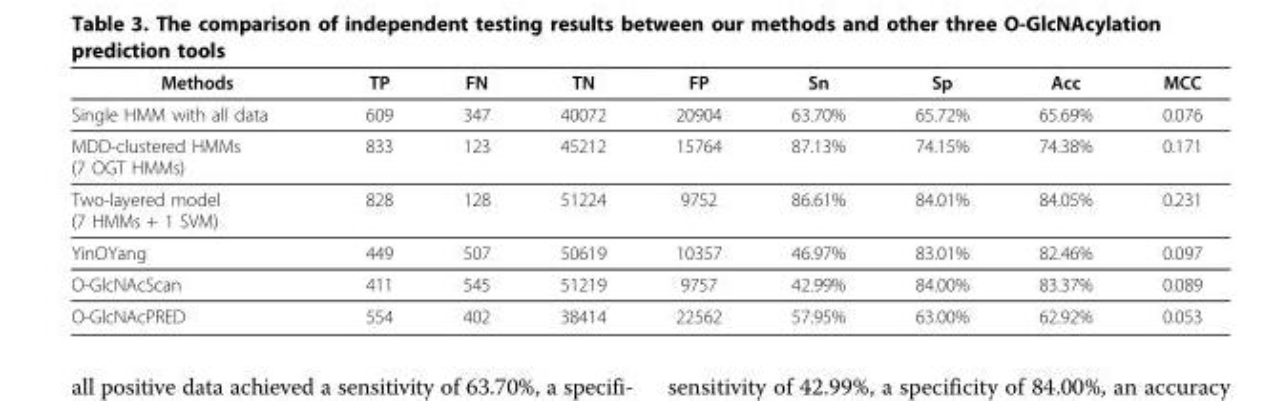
<table><thead><tr><td>Methods</td><td>TP</td><td>FN</td><td>TN</td><td>FP</td><td>Sn</td><td>Sp</td><td>Acc</td><td>MCC</td></tr></thead><tbody><tr><td>Single HMM with all data</td><td>609</td><td>347</td><td>40072</td><td>20904</td><td>63.70%</td><td>65.72%</td><td>65.69%</td><td>0.076</td></tr><tr><td>MDD-clustered HMMs (7 OGT HMMs)</td><td>833</td><td>123</td><td>45212</td><td>15764</td><td>87.13%</td><td>74.15%</td><td>74.38%</td><td>0.171</td></tr><tr><td>Two-layered model (7 HMMs + 1 SVM)</td><td>828</td><td>128</td><td>51224</td><td>9752</td><td>86.61%</td><td>84.01%</td><td>84.05%</td><td>0.231</td></tr><tr><td>YinOYang</td><td>449</td><td>507</td><td>50619</td><td>10357</td><td>46.97%</td><td>83.01%</td><td>82.46%</td><td>0.097</td></tr><tr><td>O-GlcNAcScan</td><td>411</td><td>545</td><td>51219</td><td>9757</td><td>42.99%</td><td>84.00%</td><td>83.37%</td><td>0.089</td></tr><tr><td>O-GlcNAcPRED</td><td>554</td><td>402</td><td>38414</td><td>22562</td><td>57.95%</td><td>63.00%</td><td>62.92%</td><td>0.053</td></tr></tbody></table>